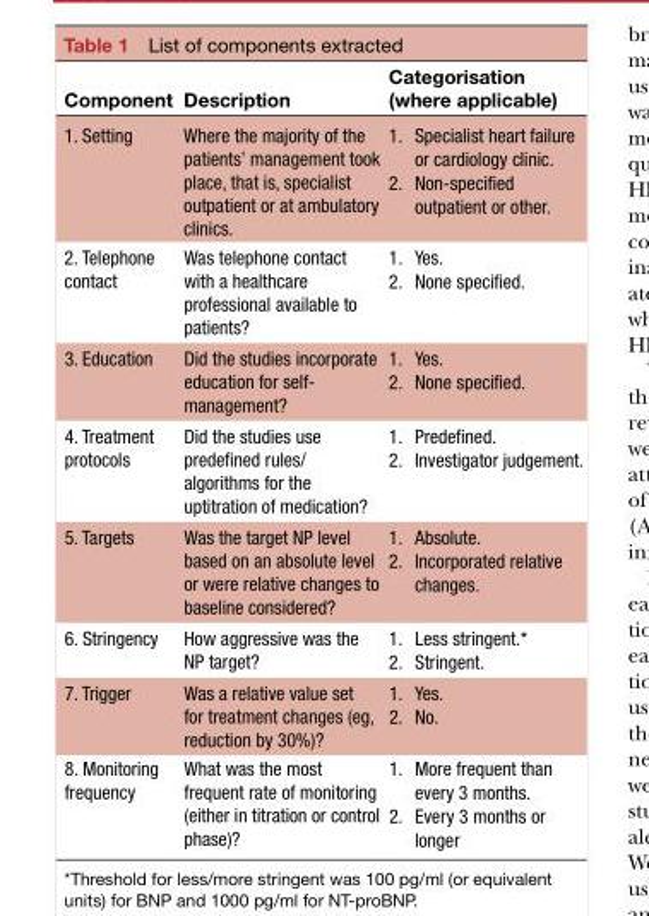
<table><thead><tr><td>Component</td><td>Description</td><td>Categorisation (where applicable)</td></tr></thead><tbody><tr><td>1. Setting</td><td>Where the majority of the patients’ management took place, that is, specialist outpatient or at ambulatory clinics.</td><td>1. Specialist heart failure or cardiology clinic. 2. Non-specified outpatient or other.</td></tr><tr><td>2. Telephone contact</td><td>Was telephone contact with a healthcare professional available to patients?</td><td>1. Yes. 2. None specified.</td></tr><tr><td>3. Education</td><td>Did the studies incorporate education for self- management?</td><td>1. Yes. 2. None specified.</td></tr><tr><td>4. Treatment protocols</td><td>Did the studies use predefined rules/ algorithms for the uptitration of medication?</td><td>1. Predefined. 2. Investigator judgement.</td></tr><tr><td>5. Targets</td><td>Was the target NP level based on an absolute level or were relative changes to baseline considered?</td><td>1. Absolute. 2. Incorporated relative changes.</td></tr><tr><td>6. Stringency</td><td>How aggressive was the NP target?</td><td>1. Less stringent.* 2. Stringent.</td></tr><tr><td>7. Trigger</td><td>Was a relative value set for treatment changes (eg, reduction by 30%)?</td><td>1. Yes. 2. No.</td></tr><tr><td>8. Monitoring frequency</td><td>What was the most frequent rate of monitoring (either in titration or control phase)?</td><td>1. More frequent than every 3 months. 2. Every 3 months or longer</td></tr></tbody></table>